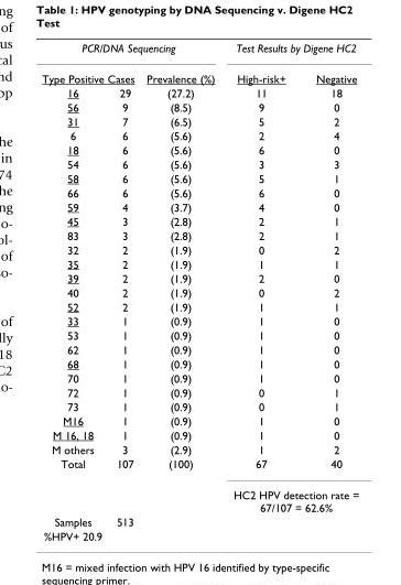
<table><tbody><tr><td colspan="3">PCR/DNA Sequencing</td><td colspan="2">Test Results by Digene HC2</td></tr><tr><td colspan="2">Type Positive Cases</td><td>Prevalence (%)</td><td>High-risk+</td><td>Negative</td></tr><tr><td>16</td><td>29</td><td>(27.2)</td><td>11</td><td>18</td></tr><tr><td>56</td><td>9</td><td>(8.5)</td><td>9</td><td>0</td></tr><tr><td>31</td><td>7</td><td>(6.5)</td><td>5</td><td>2</td></tr><tr><td>6</td><td>6</td><td>(5.6)</td><td>2</td><td>4</td></tr><tr><td>18</td><td>6</td><td>(5.6)</td><td>6</td><td>0</td></tr><tr><td>54</td><td>6</td><td>(5.6)</td><td>3</td><td>3</td></tr><tr><td>58</td><td>6</td><td>(5.6)</td><td>5</td><td>1</td></tr><tr><td>66</td><td>6</td><td>(5.6)</td><td>6</td><td>0</td></tr><tr><td>59</td><td>4</td><td>(3.7)</td><td>4</td><td>0</td></tr><tr><td>45</td><td>3</td><td>(2.8)</td><td>2</td><td>1</td></tr><tr><td>83</td><td>3</td><td>(2.8)</td><td>2</td><td>1</td></tr><tr><td>32</td><td>2</td><td>(1.9)</td><td>0</td><td>2</td></tr><tr><td>35</td><td>2</td><td>(1.9)</td><td>1</td><td>1</td></tr><tr><td>39</td><td>2</td><td>(1.9)</td><td>2</td><td>0</td></tr><tr><td>40</td><td>2</td><td>(1.9)</td><td>0</td><td>2</td></tr><tr><td>52</td><td>2</td><td>(1.9)</td><td>1</td><td>1</td></tr><tr><td>33</td><td>1</td><td>(0.9)</td><td>1</td><td>0</td></tr><tr><td>53</td><td>1</td><td>(0.9)</td><td>1</td><td>0</td></tr><tr><td>62</td><td>1</td><td>(0.9)</td><td>1</td><td>0</td></tr><tr><td>68</td><td>1</td><td>(0.9)</td><td>1</td><td>0</td></tr><tr><td>70</td><td>1</td><td>(0.9)</td><td>1</td><td>0</td></tr><tr><td>72</td><td>1</td><td>(0.9)</td><td>0</td><td>1</td></tr><tr><td>73</td><td>1</td><td>(0.9)</td><td>0</td><td>1</td></tr><tr><td>M16</td><td>1</td><td>(0.9)</td><td>1</td><td>0</td></tr><tr><td>M 16, 18</td><td>1</td><td>(0.9)</td><td>1</td><td>0</td></tr><tr><td>M others</td><td>3</td><td>(2.9)</td><td>1</td><td>2</td></tr><tr><td rowspan="2">Total</td><td>107</td><td>(100)</td><td>67</td><td>40</td></tr><tr><td></td><td></td><td colspan="2">HC2 HPV detection rate = 67/107 = 62.6%</td></tr><tr><td>Samples</td><td>513</td><td></td><td></td><td></td></tr><tr><td>%HPV+ 20.9</td><td></td><td></td><td></td><td></td></tr></tbody></table>